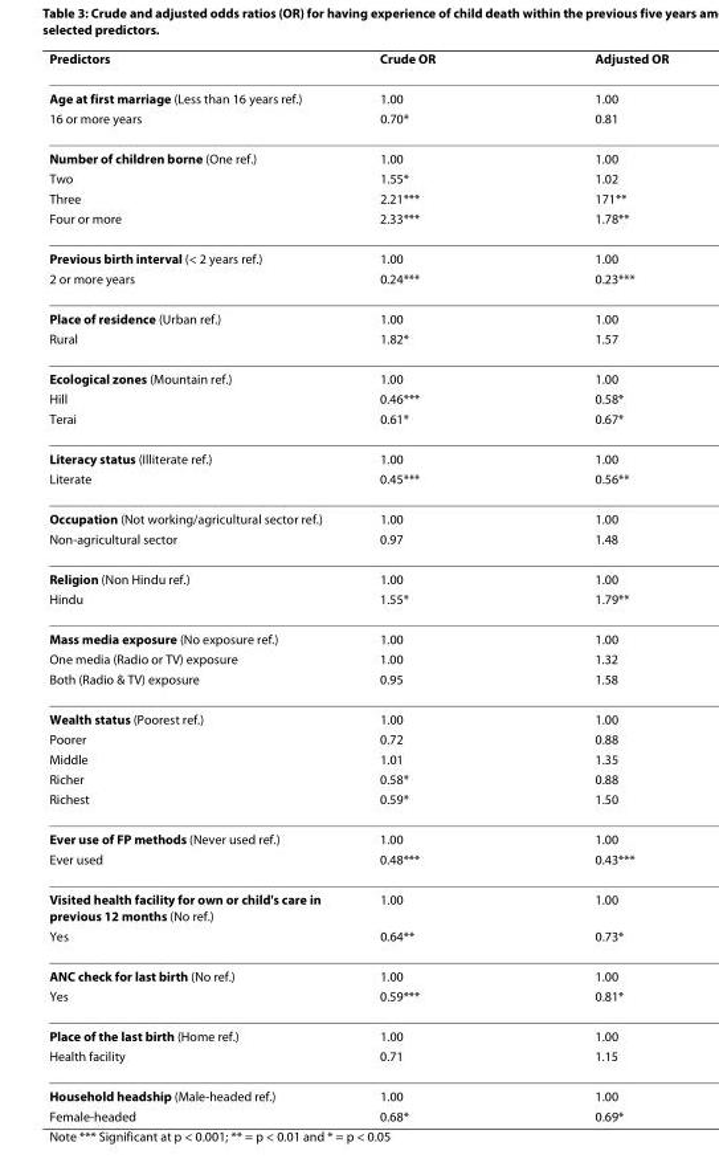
<table><thead><tr><td>Predictors</td><td>Crude OR</td><td>Adjusted OR</td></tr></thead><tbody><tr><td>Age at first marriage (Less than 16 years ref.)</td><td>1.00</td><td>1.00</td></tr><tr><td>16 or more years</td><td>0.70*</td><td>0.81</td></tr><tr><td>Number of children borne (One ref.)</td><td>1.00</td><td>1.00</td></tr><tr><td>Two</td><td>1.55*</td><td>1.02</td></tr><tr><td>Three</td><td>2.21***</td><td>171**</td></tr><tr><td>Four or more</td><td>2.33***</td><td>1.78**</td></tr><tr><td>Previous birth interval (&lt; 2 years ref.)</td><td>1.00</td><td>1.00</td></tr><tr><td>2 or more years</td><td>0.24***</td><td>0.23***</td></tr><tr><td>Place of residence (Urban ref.)</td><td>1.00</td><td>1.00</td></tr><tr><td>Rural</td><td>1.82*</td><td>1.57</td></tr><tr><td>Ecological zones (Mountain ref.)</td><td>1.00</td><td>1.00</td></tr><tr><td>Hill</td><td>0.46***</td><td>0.58*</td></tr><tr><td>Terai</td><td>0.61*</td><td>0.67*</td></tr><tr><td>Literacy status (Illiterate ref.)</td><td>1.00</td><td>1.00</td></tr><tr><td>Literate</td><td>0.45***</td><td>0.56**</td></tr><tr><td>Occupation (Not working/agricultural sector ref.)</td><td>1.00</td><td>1.00</td></tr><tr><td>Non-agricultural sector</td><td>0.97</td><td>1.48</td></tr><tr><td>Religion (Non Hindu ref.)</td><td>1.00</td><td>1.00</td></tr><tr><td>Hindu</td><td>1.55*</td><td>1.79**</td></tr><tr><td>Mass media exposure (No exposure ref.)</td><td>1.00</td><td>1.00</td></tr><tr><td>One media (Radio or TV) exposure</td><td>1.00</td><td>1.32</td></tr><tr><td>Both (Radio &amp; TV) exposure</td><td>0.95</td><td>1.58</td></tr><tr><td>Wealth status (Poorest ref.)</td><td>1.00</td><td>1.00</td></tr><tr><td>Poorer</td><td>0.72</td><td>0.88</td></tr><tr><td>Middle</td><td>1.01</td><td>1.35</td></tr><tr><td>Richer</td><td>0.58*</td><td>0.88</td></tr><tr><td>Richest</td><td>0.59*</td><td>1.50</td></tr><tr><td>Ever use of FP methods (Never used ref.)</td><td>1.00</td><td>1.00</td></tr><tr><td>Ever used</td><td>0.48***</td><td>0.43***</td></tr><tr><td>Visited health facility for own or child&#x27;s care in previous 12 months (No ref.)</td><td>1.00</td><td>1.00</td></tr><tr><td>Yes</td><td>0.64**</td><td>0.73*</td></tr><tr><td>ANC check for last birth (No ref.)</td><td>1.00</td><td>1.00</td></tr><tr><td>Yes</td><td>0.59***</td><td>0.81*</td></tr><tr><td>Place of the last birth (Home ref.)</td><td>1.00</td><td>1.00</td></tr><tr><td>Health facility</td><td>0.71</td><td>1.15</td></tr><tr><td>Household headship (Male-headed ref.)</td><td>1.00</td><td>1.00</td></tr><tr><td>Female-headed</td><td>0.68*</td><td>0.69*</td></tr></tbody></table>